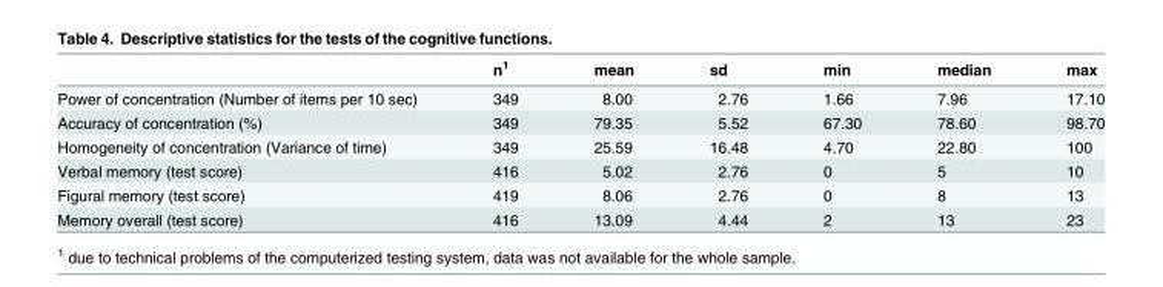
<table><thead><tr><td></td><td>n<sup>1</sup></td><td>mean</td><td>sd</td><td>min</td><td>median</td><td>max</td></tr></thead><tbody><tr><td>Power of concentration (Number of items per 10 sec)</td><td>349</td><td>8.00</td><td>2.76</td><td>1.66</td><td>7.96</td><td>17.10</td></tr><tr><td>Accuracy of concentration (%)</td><td>349</td><td>79.35</td><td>5.52</td><td>67.30</td><td>78.60</td><td>98.70</td></tr><tr><td>Homogeneity of concentration (Variance of time)</td><td>349</td><td>25.59</td><td>16.48</td><td>4.70</td><td>22.80</td><td>100</td></tr><tr><td>Verbal memory (test score)</td><td>416</td><td>5.02</td><td>2.76</td><td>0</td><td>5</td><td>10</td></tr><tr><td>Figural memory (test score)</td><td>419</td><td>8.06</td><td>2.76</td><td>0</td><td>8</td><td>13</td></tr><tr><td>Memory overall (test score)</td><td>416</td><td>13.09</td><td>4.44</td><td>2</td><td>13</td><td>23</td></tr></tbody></table>